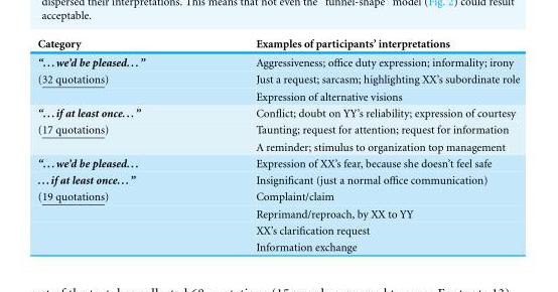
<table><thead><tr><td>Category</td><td>Examples of participants’ interpretations</td></tr></thead><tbody><tr><td>“...we’d be pleased...”</td><td>Aggressiveness; office duty expression; informality; irony</td></tr><tr><td rowspan="2">(32 quotations)</td><td>Just a request; sarcasm; highlighting XX’s subordinate role</td></tr><tr><td>Expression of alternative visions</td></tr><tr><td>“...if at least once...”</td><td>Conflict; doubt on YY’s reliability; expression of courtesy</td></tr><tr><td rowspan="2">(17 quotations)</td><td>Taunting; request for attention; request for information</td></tr><tr><td>A reminder; stimulus to organization top management</td></tr><tr><td>“...we’d be pleased...</td><td>Expression of XX’s fear, because she doesn’t feel safe</td></tr><tr><td>...if at least once...”</td><td>Insignificant (just a normal office communication)</td></tr><tr><td rowspan="4">(19 quotations)</td><td>Complaint/claim</td></tr><tr><td>Reprimand/reproach, by XX to YY</td></tr><tr><td>XX’s clarification request</td></tr><tr><td>Information exchange</td></tr></tbody></table>